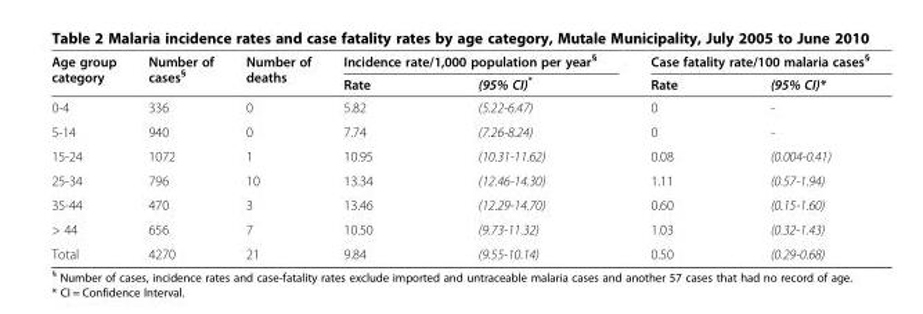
<table><thead><tr><td rowspan="2">Age group category</td><td rowspan="2">Number of cases<sup>§</sup></td><td rowspan="2">Number of deaths</td><td colspan="2">Incidence rate/1,000 population per year<sup>§</sup></td><td colspan="2">Case fatality rate/100 malaria cases<sup>§</sup></td></tr><tr><td>Rate</td><td>(95% CI)*</td><td>Rate</td><td>(95% CI)*</td></tr></thead><tbody><tr><td>0-4</td><td>336</td><td>0</td><td>5.82</td><td>(5.22-6.47)</td><td>0</td><td>-</td></tr><tr><td>5-14</td><td>940</td><td>0</td><td>7.74</td><td>(7.26-8.24)</td><td>0</td><td>-</td></tr><tr><td>15-24</td><td>1072</td><td>1</td><td>10.95</td><td>(10.31-11.62)</td><td>0.08</td><td>(0.004-0.41)</td></tr><tr><td>25-34</td><td>796</td><td>10</td><td>13.34</td><td>(12.46-14.30)</td><td>1.11</td><td>(0.57-1.94)</td></tr><tr><td>35-44</td><td>470</td><td>3</td><td>13.46</td><td>(12.29-14.70)</td><td>0.60</td><td>(0.15-1.60)</td></tr><tr><td>&gt; 44</td><td>656</td><td>7</td><td>10.50</td><td>(9.73-11.32)</td><td>1.03</td><td>(0.32-1.43)</td></tr><tr><td>Total</td><td>4270</td><td>21</td><td>9.84</td><td>(9.55-10.14)</td><td>0.50</td><td>(0.29-0.68)</td></tr></tbody></table>